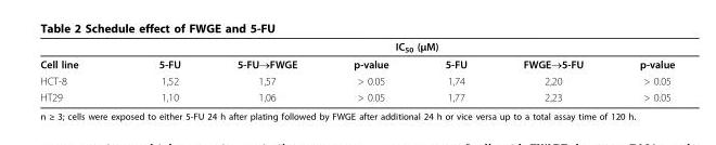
<table><thead><tr><td rowspan="2">Cell line</td><td colspan="6">IC<sub>50</sub> (μM)</td></tr><tr><td>5-FU</td><td>5-FU→FWGE</td><td>p-value</td><td>5-FU</td><td>FWGE→5-FU</td><td>p-value</td></tr></thead><tbody><tr><td>HCT-8</td><td>1,52</td><td>1,57</td><td>&gt; 0.05</td><td>1,74</td><td>2,20</td><td>&gt; 0.05</td></tr><tr><td>HT29</td><td>1,10</td><td>1,06</td><td>&gt; 0.05</td><td>1,77</td><td>2,23</td><td>&gt; 0.05</td></tr></tbody></table>